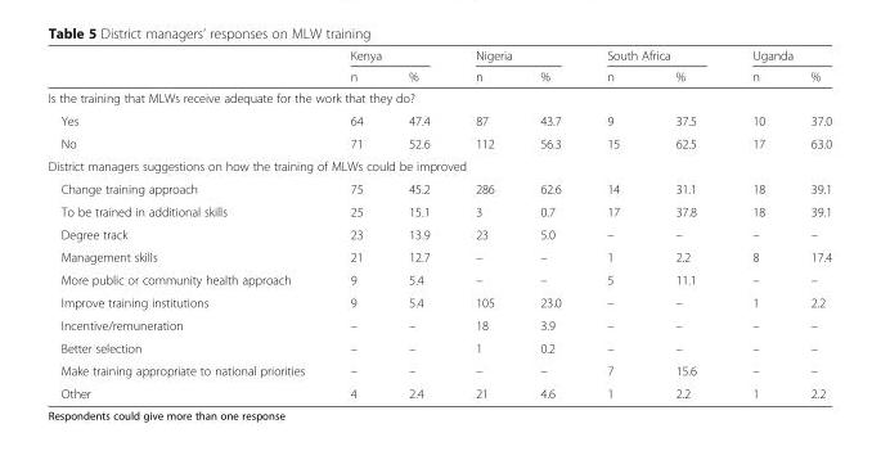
<table><thead><tr><td rowspan="2"></td><td colspan="2">Kenya</td><td colspan="2">Nigeria</td><td colspan="2">South Africa</td><td colspan="2">Uganda</td></tr><tr><td>n</td><td>%</td><td>n</td><td>%</td><td>n</td><td>%</td><td>n</td><td>%</td></tr></thead><tbody><tr><td colspan="9">Is the training that MLWs receive adequate for the work that they do?</td></tr><tr><td>Yes</td><td>64</td><td>47.4</td><td>87</td><td>43.7</td><td>9</td><td>37.5</td><td>10</td><td>37.0</td></tr><tr><td>No</td><td>71</td><td>52.6</td><td>112</td><td>56.3</td><td>15</td><td>62.5</td><td>17</td><td>63.0</td></tr><tr><td colspan="9">District managers suggestions on how the training of MLWs could be improved</td></tr><tr><td>Change training approach</td><td>75</td><td>45.2</td><td>286</td><td>62.6</td><td>14</td><td>31.1</td><td>18</td><td>39.1</td></tr><tr><td>To be trained in additional skills</td><td>25</td><td>15.1</td><td>3</td><td>0.7</td><td>17</td><td>37.8</td><td>18</td><td>39.1</td></tr><tr><td>Degree track</td><td>23</td><td>13.9</td><td>23</td><td>5.0</td><td>–</td><td>–</td><td>–</td><td>–</td></tr><tr><td>Management skills</td><td>21</td><td>12.7</td><td>–</td><td>–</td><td>1</td><td>2.2</td><td>8</td><td>17.4</td></tr><tr><td>More public or community health approach</td><td>9</td><td>5.4</td><td>–</td><td>–</td><td>5</td><td>11.1</td><td>–</td><td>–</td></tr><tr><td>Improve training institutions</td><td>9</td><td>5.4</td><td>105</td><td>23.0</td><td>–</td><td>–</td><td>1</td><td>2.2</td></tr><tr><td>Incentive/remuneration</td><td>–</td><td>–</td><td>18</td><td>3.9</td><td>–</td><td>–</td><td>–</td><td>–</td></tr><tr><td>Better selection</td><td>–</td><td>–</td><td>1</td><td>0.2</td><td>–</td><td>–</td><td>–</td><td>–</td></tr><tr><td>Make training appropriate to national priorities</td><td>–</td><td>–</td><td>–</td><td>–</td><td>7</td><td>15.6</td><td>–</td><td>–</td></tr><tr><td>Other</td><td>4</td><td>2.4</td><td>21</td><td>4.6</td><td>1</td><td>2.2</td><td>1</td><td>2.2</td></tr></tbody></table>